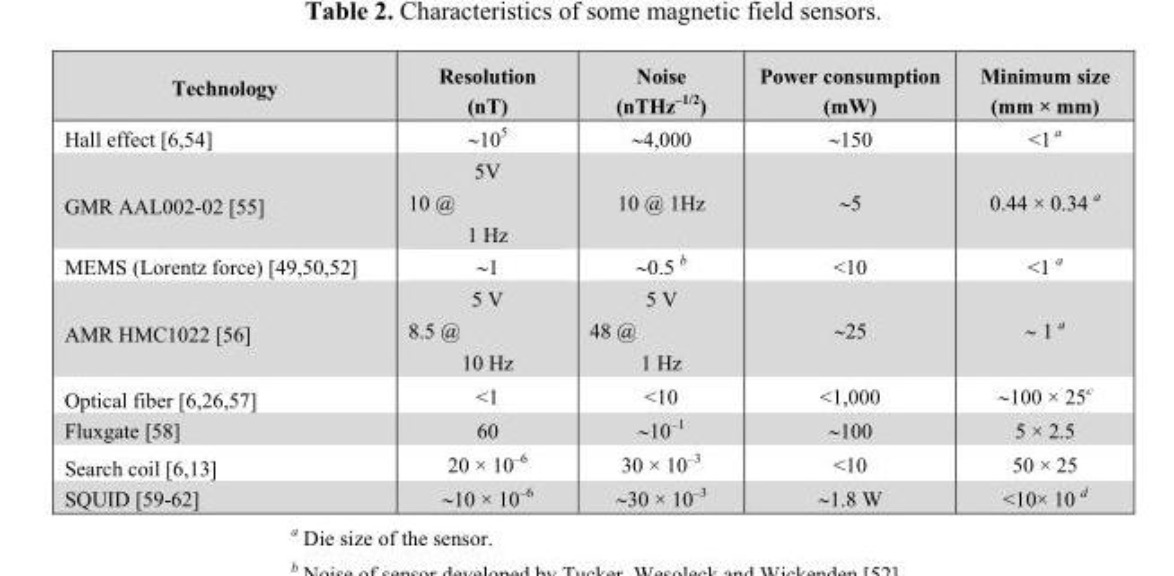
<table><thead><tr><td>Technology</td><td>Resolution (nT)</td><td>Noise (nTHz<sup>–1/2</sup>)</td><td>Power consumption (mW)</td><td>Minimum size (mm × mm)</td></tr></thead><tbody><tr><td>Hall effect [6,54]</td><td>∼10<sup>5</sup></td><td>∼4,000</td><td>∼150</td><td>&lt;1 <sup>a</sup></td></tr><tr><td>GMR AAL002-02 [55]</td><td>5V 10 @ 1 Hz</td><td>10 @ 1Hz</td><td>∼5</td><td>0.44 × 0.34 <sup>a</sup></td></tr><tr><td>MEMS (Lorentz force) [49,50,52]</td><td>∼1</td><td>∼0.5 <sup>b</sup></td><td>&lt;10</td><td>&lt;1 <sup>a</sup></td></tr><tr><td>AMR HMC1022 [56]</td><td>5 V 8.5 @ 10 Hz</td><td>5 V 48 @ 1 Hz</td><td>∼25</td><td>∼ 1 <sup>a</sup></td></tr><tr><td>Optical fiber [6,26,57]</td><td>&lt;1</td><td>&lt;10</td><td>&lt;1,000</td><td>∼100 × 25<sup>c</sup></td></tr><tr><td>Fluxgate [58]</td><td>60</td><td>∼10<sup>–1</sup></td><td>∼100</td><td>5 × 2.5</td></tr><tr><td>Search coil [6,13]</td><td>20 × 10<sup>–6</sup></td><td>30 × 10<sup>–3</sup></td><td>&lt;10</td><td>50 × 25</td></tr><tr><td>SQUID [59-62]</td><td>∼10 × 10<sup>–6</sup></td><td>∼30 × 10<sup>–3</sup></td><td>∼1.8 W</td><td>&lt;10× 10 <sup>d</sup></td></tr></tbody></table>